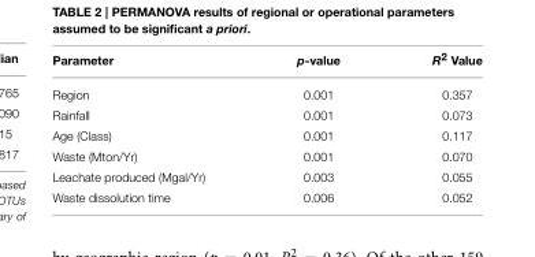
<table><thead><tr><td>Parameter</td><td>p-value</td><td>R<sup>2</sup> Value</td></tr></thead><tbody><tr><td>Region</td><td>0.001</td><td>0.357</td></tr><tr><td>Rainfall</td><td>0.001</td><td>0.073</td></tr><tr><td>Age (Class)</td><td>0.001</td><td>0.117</td></tr><tr><td>Waste (Mton/Yr)</td><td>0.001</td><td>0.070</td></tr><tr><td>Leachate produced (Mgal/Yr)</td><td>0.003</td><td>0.055</td></tr><tr><td>Waste dissolution time</td><td>0.006</td><td>0.052</td></tr></tbody></table>